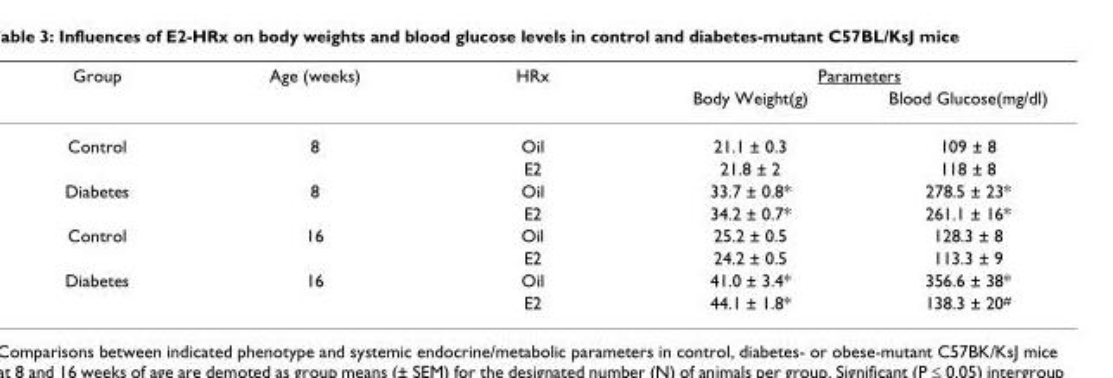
<table><thead><tr><td rowspan="2">Group</td><td rowspan="2">Age (weeks)</td><td rowspan="2">HRx</td><td colspan="2">Parameters</td></tr><tr><td>Body Weight(g)</td><td>Blood Glucose(mg/dl)</td></tr></thead><tbody><tr><td rowspan="2">Control</td><td>8</td><td>Oil</td><td>21.1 ± 0.3</td><td>109 ± 8</td></tr><tr><td></td><td>E2</td><td>21.8 ± 2</td><td>118 ± 8</td></tr><tr><td rowspan="2">Diabetes</td><td>8</td><td>Oil</td><td>33.7 ± 0.8*</td><td>278.5 ± 23*</td></tr><tr><td></td><td>E2</td><td>34.2 ± 0.7*</td><td>261.1 ± 16*</td></tr><tr><td rowspan="2">Control</td><td>16</td><td>Oil</td><td>25.2 ± 0.5</td><td>128.3 ± 8</td></tr><tr><td></td><td>E2</td><td>24.2 ± 0.5</td><td>113.3 ± 9</td></tr><tr><td rowspan="2">Diabetes</td><td>16</td><td>Oil</td><td>41.0 ± 3.4*</td><td>356.6 ± 38*</td></tr><tr><td></td><td>E2</td><td>44.1 ± 1.8*</td><td>138.3 ± 20#</td></tr></tbody></table>